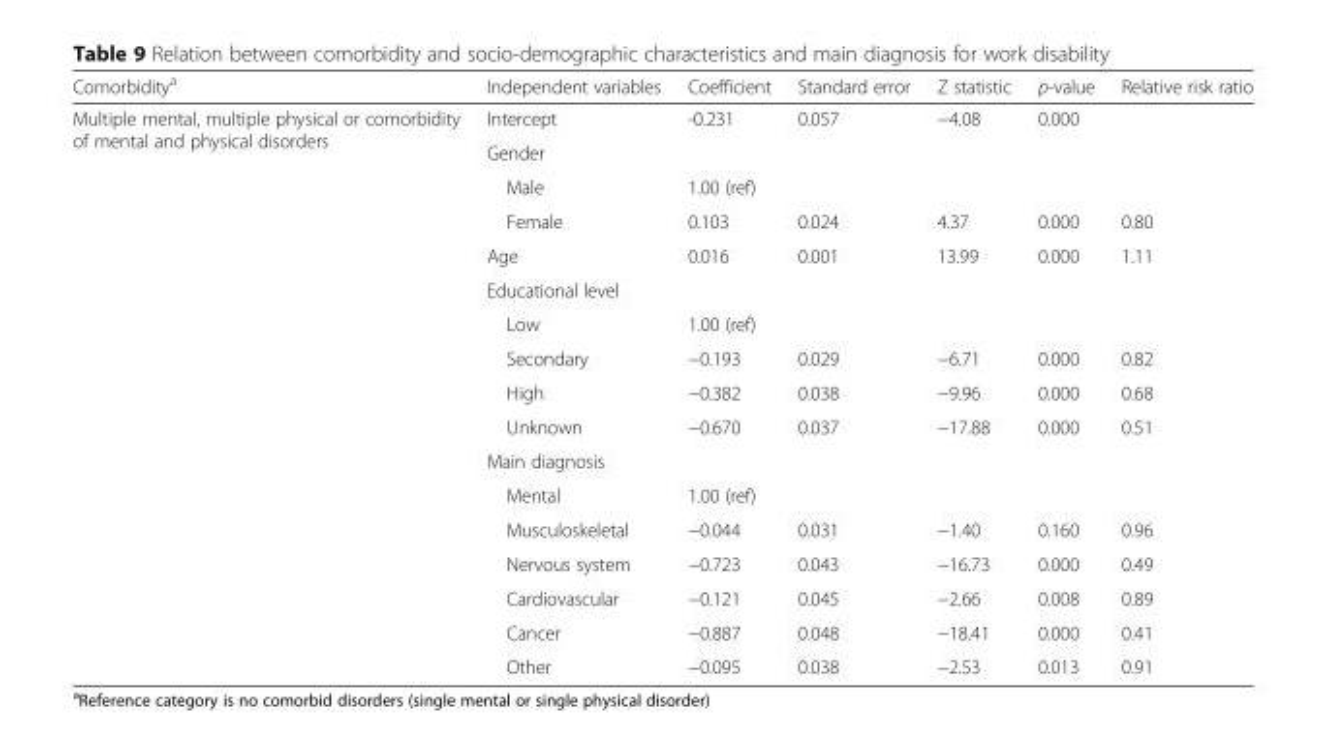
<table><thead><tr><td>Comorbidity<sup>a</sup></td><td>Independent variables</td><td>Coefficient</td><td>Standard error</td><td>Z statistic</td><td>p-value</td><td>Relative risk ratio</td></tr></thead><tbody><tr><td rowspan="17">Multiple mental, multiple physical or comorbidity of mental and physical disorders</td><td>Intercept</td><td>-0.231</td><td>0.057</td><td>−4.08</td><td>0.000</td><td></td></tr><tr><td colspan="6">Gender</td></tr><tr><td>Male</td><td>1.00 (ref)</td><td></td><td></td><td></td><td></td></tr><tr><td>Female</td><td>0.103</td><td>0.024</td><td>4.37</td><td>0.000</td><td>0.80</td></tr><tr><td>Age</td><td>0.016</td><td>0.001</td><td>13.99</td><td>0.000</td><td>1.11</td></tr><tr><td colspan="6">Educational level</td></tr><tr><td>Low</td><td>1.00 (ref)</td><td></td><td></td><td></td><td></td></tr><tr><td>Secondary</td><td>−0.193</td><td>0.029</td><td>−6.71</td><td>0.000</td><td>0.82</td></tr><tr><td>High</td><td>−0.382</td><td>0.038</td><td>−9.96</td><td>0.000</td><td>0.68</td></tr><tr><td>Unknown</td><td>−0.670</td><td>0.037</td><td>−17.88</td><td>0.000</td><td>0.51</td></tr><tr><td colspan="6">Main diagnosis</td></tr><tr><td>Mental</td><td>1.00 (ref)</td><td></td><td></td><td></td><td></td></tr><tr><td>Musculoskeletal</td><td>−0.044</td><td>0.031</td><td>−1.40</td><td>0.160</td><td>0.96</td></tr><tr><td>Nervous system</td><td>−0.723</td><td>0.043</td><td>−16.73</td><td>0.000</td><td>0.49</td></tr><tr><td>Cardiovascular</td><td>−0.121</td><td>0.045</td><td>−2.66</td><td>0.008</td><td>0.89</td></tr><tr><td>Cancer</td><td>−0.887</td><td>0.048</td><td>−18.41</td><td>0.000</td><td>0.41</td></tr><tr><td>Other</td><td>−0.095</td><td>0.038</td><td>−2.53</td><td>0.013</td><td>0.91</td></tr></tbody></table>